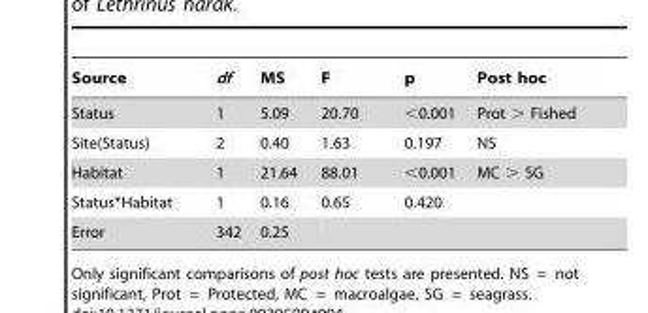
<table><thead><tr><td>Source</td><td>df</td><td>MS</td><td>F</td><td>p</td><td>Post hoc</td></tr></thead><tbody><tr><td>Status</td><td>1</td><td>5.09</td><td>20.70</td><td>&lt;0.001</td><td>Prot &gt; Fished</td></tr><tr><td>Site(Status)</td><td>2</td><td>0.40</td><td>1.63</td><td>0.197</td><td>NS</td></tr><tr><td>Habitat</td><td>1</td><td>21.64</td><td>88.01</td><td>&lt;0.001</td><td>MC &gt; SG</td></tr><tr><td>Status*Habitat</td><td>1</td><td>0.16</td><td>0.65</td><td>0.420</td><td></td></tr><tr><td>Error</td><td>342</td><td>0.25</td><td></td><td></td><td></td></tr></tbody></table>